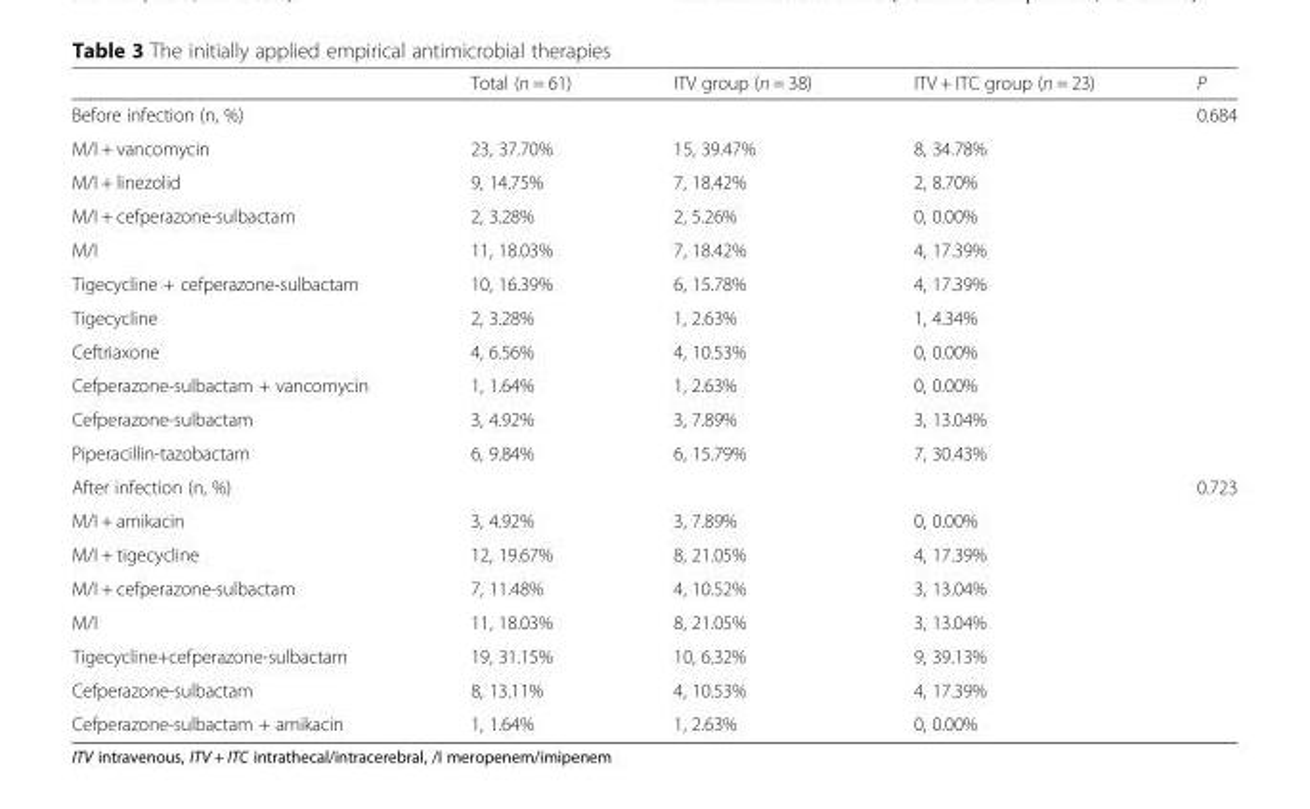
<table><thead><tr><td></td><td>Total (n = 61)</td><td>ITV group (n = 38)</td><td>ITV + ITC group (n = 23)</td><td>P</td></tr></thead><tbody><tr><td>Before infection (n, %)</td><td></td><td></td><td></td><td>0.684</td></tr><tr><td>M/I + vancomycin</td><td>23, 37.70%</td><td>15, 39.47%</td><td>8, 34.78%</td><td></td></tr><tr><td>M/I + linezolid</td><td>9, 14.75%</td><td>7, 18.42%</td><td>2, 8.70%</td><td></td></tr><tr><td>M/I + cefperazone-sulbactam</td><td>2, 3.28%</td><td>2, 5.26%</td><td>0, 0.00%</td><td></td></tr><tr><td>M/I</td><td>11, 18.03%</td><td>7, 18.42%</td><td>4, 17.39%</td><td></td></tr><tr><td>Tigecycline + cefperazone-sulbactam</td><td>10, 16.39%</td><td>6, 15.78%</td><td>4, 17.39%</td><td></td></tr><tr><td>Tigecycline</td><td>2, 3.28%</td><td>1, 2.63%</td><td>1, 4.34%</td><td></td></tr><tr><td>Ceftriaxone</td><td>4, 6.56%</td><td>4, 10.53%</td><td>0, 0.00%</td><td></td></tr><tr><td>Cefperazone-sulbactam + vancomycin</td><td>1, 1.64%</td><td>1, 2.63%</td><td>0, 0.00%</td><td></td></tr><tr><td>Cefperazone-sulbactam</td><td>3, 4.92%</td><td>3, 7.89%</td><td>3, 13.04%</td><td></td></tr><tr><td>Piperacillin-tazobactam</td><td>6, 9.84%</td><td>6, 15.79%</td><td>7, 30.43%</td><td></td></tr><tr><td>After infection (n, %)</td><td></td><td></td><td></td><td>0.723</td></tr><tr><td>M/I + amikacin</td><td>3, 4.92%</td><td>3, 7.89%</td><td>0, 0.00%</td><td></td></tr><tr><td>M/I + tigecycline</td><td>12, 19.67%</td><td>8, 21.05%</td><td>4, 17.39%</td><td></td></tr><tr><td>M/I + cefperazone-sulbactam</td><td>7, 11.48%</td><td>4, 10.52%</td><td>3, 13.04%</td><td></td></tr><tr><td>M/I</td><td>11, 18.03%</td><td>8, 21.05%</td><td>3, 13.04%</td><td></td></tr><tr><td>Tigecycline+cefperazone-sulbactam</td><td>19, 31.15%</td><td>10, 6.32%</td><td>9, 39.13%</td><td></td></tr><tr><td>Cefperazone-sulbactam</td><td>8, 13.11%</td><td>4, 10.53%</td><td>4, 17.39%</td><td></td></tr><tr><td>Cefperazone-sulbactam + amikacin</td><td>1, 1.64%</td><td>1, 2.63%</td><td>0, 0.00%</td><td></td></tr></tbody></table>